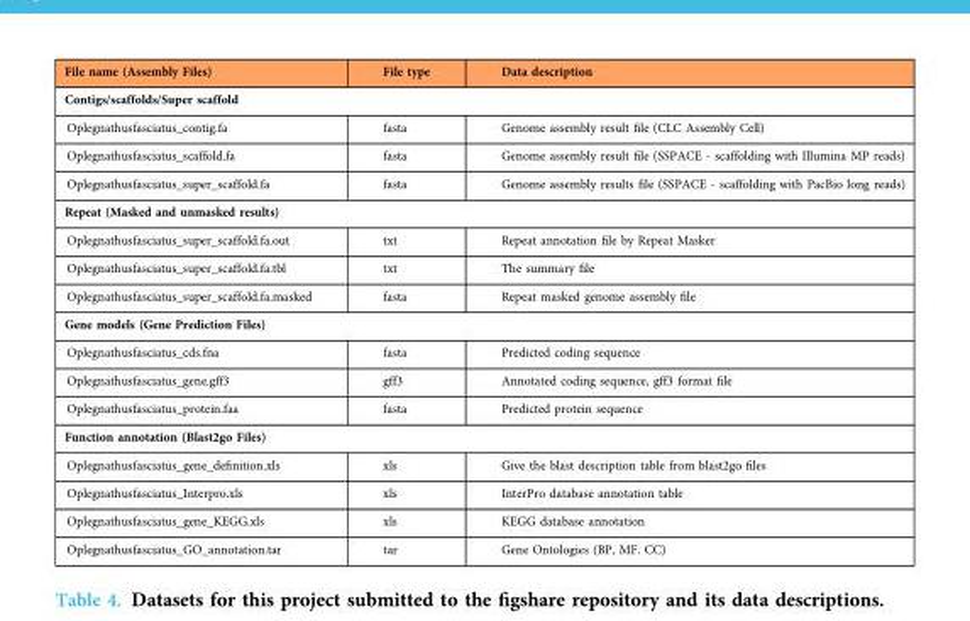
<table><thead><tr><td>File name (Assembly Files)</td><td>File type</td><td>Data description</td></tr></thead><tbody><tr><td colspan="3">Contigs/scaffolds/Super scaffold</td></tr><tr><td>Oplegnathusfasciatus_contig.fa</td><td>fasta</td><td>Genome assembly result file (CLC Assembly Cell)</td></tr><tr><td>Oplegnathusfasciatus_scaffold.fa</td><td>fasta</td><td>Genome assembly result file (SSPACE - scaffolding with Illumina MP reads)</td></tr><tr><td>Oplegnathusfasciatus_super_scaffold.fa</td><td>fasta</td><td>Genome assembly results file (SSPACE - scaffolding with PacBio long reads)</td></tr><tr><td colspan="3">Repeat (Masked and unmasked results)</td></tr><tr><td>Oplegnathusfasciatus_super_scaffold.fa.out</td><td>txt</td><td>Repeat annotation file by Repeat Masker</td></tr><tr><td>Oplegnathusfasciatus_super_scaffold.fa.tbl</td><td>txt</td><td>The summary file</td></tr><tr><td>Oplegnathusfasciatus_super_scaffold.fa.masked</td><td>fasta</td><td>Repeat masked genome assembly file</td></tr><tr><td colspan="3">Gene models (Gene Prediction Files)</td></tr><tr><td>Oplegnathusfasciatus_cds.fna</td><td>fasta</td><td>Predicted coding sequence</td></tr><tr><td>Oplegnathusfasciatus_gene.gff3</td><td>gff3</td><td>Annotated coding sequence, gff3 format file</td></tr><tr><td>Oplegnathusfasciatus_protein.faa</td><td>fasta</td><td>Predicted protein sequence</td></tr><tr><td colspan="3">Function annotation (Blast2go Files)</td></tr><tr><td>Oplegnathusfasciatus_gene_definition.xls</td><td>xls</td><td>Give the blast description table from blast2go files</td></tr><tr><td>Oplegnathusfasciatus_Interpro.xls</td><td>xls</td><td>InterPro database annotation table</td></tr><tr><td>Oplegnathusfasciatus_gene_KEGG.xls</td><td>xls</td><td>KEGG database annotation</td></tr><tr><td>Oplegnathusfasciatus_GO_annotation.tar</td><td>tar</td><td>Gene Ontologies (BP, MF. CC)</td></tr></tbody></table>